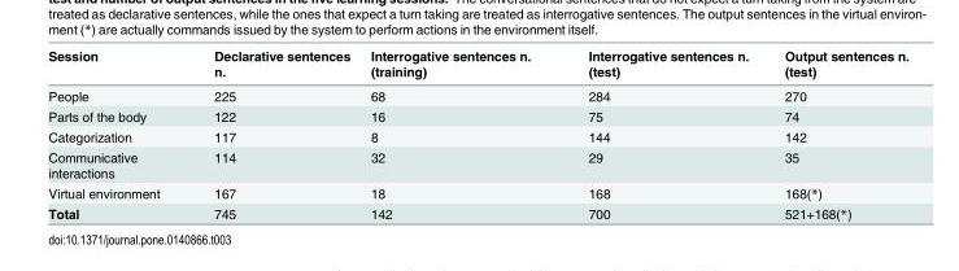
<table><thead><tr><td>Session</td><td>Declarative sentences n.</td><td>Interrogative sentences n. (training)</td><td>Interrogative sentences n. (test)</td><td>Output sentences n. (test)</td></tr></thead><tbody><tr><td>People</td><td>225</td><td>68</td><td>284</td><td>270</td></tr><tr><td>Parts of the body</td><td>122</td><td>16</td><td>75</td><td>74</td></tr><tr><td>Categorization</td><td>117</td><td>8</td><td>144</td><td>142</td></tr><tr><td>Communicative interactions</td><td>114</td><td>32</td><td>29</td><td>35</td></tr><tr><td>Virtual environment</td><td>167</td><td>18</td><td>168</td><td>168(*)</td></tr><tr><td>Total</td><td>745</td><td>142</td><td>700</td><td>521+168(*)</td></tr></tbody></table>